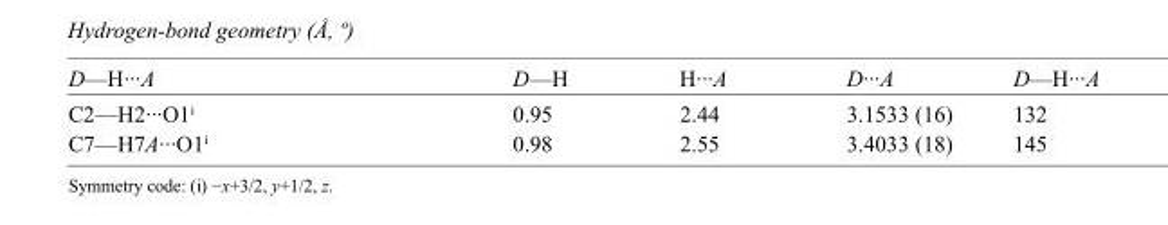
<table><tbody><tr><td>D—H···A</td><td>D—H</td><td>H···A</td><td>D···A</td><td>D—H···A</td></tr><tr><td>C2—H2···O1<sup>i</sup></td><td>0.95</td><td>2.44</td><td>3.1533 (16)</td><td>132</td></tr><tr><td>C7—H7A···O1<sup>i</sup></td><td>0.98</td><td>2.55</td><td>3.4033 (18)</td><td>145</td></tr></tbody></table>